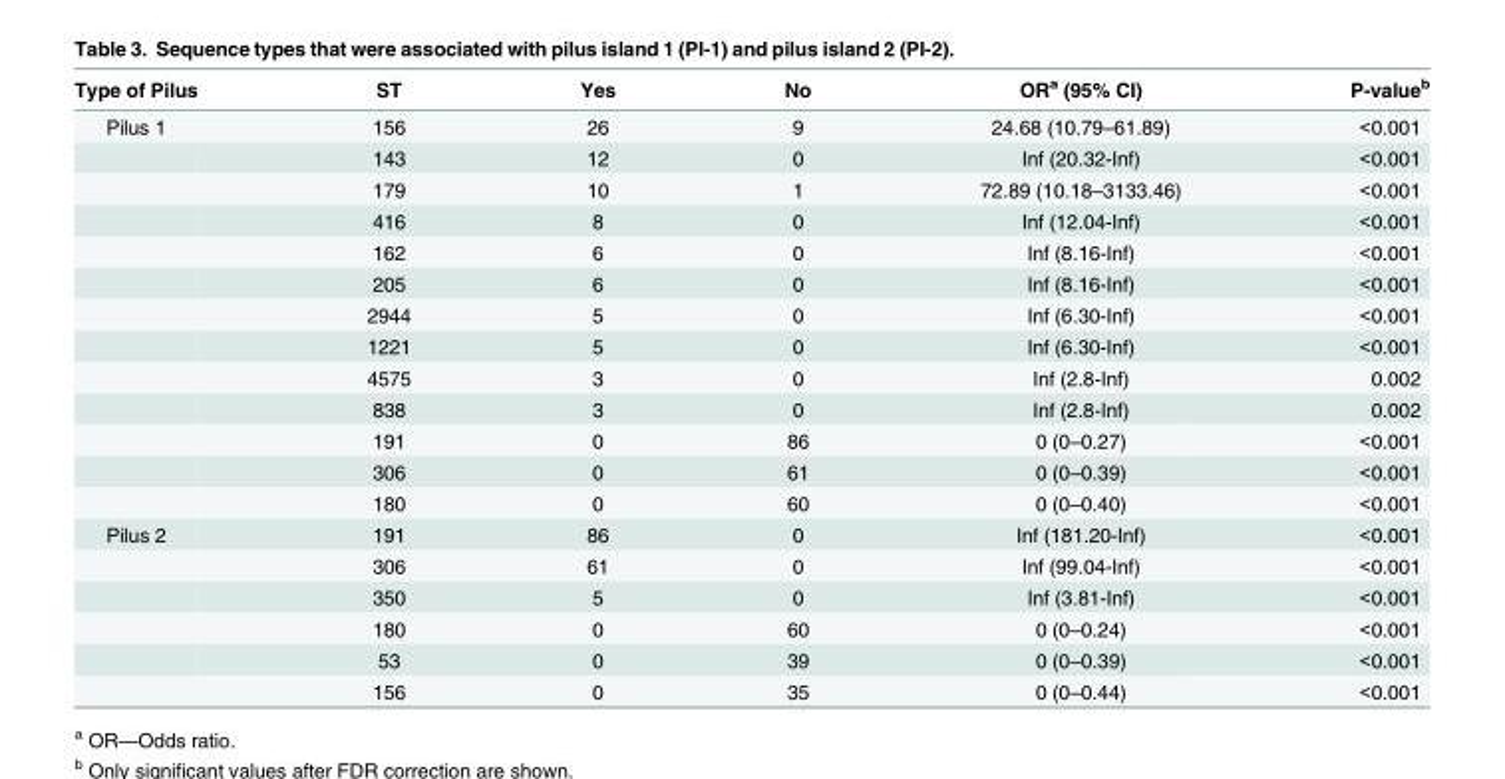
<table><thead><tr><td>Type of Pilus</td><td>ST</td><td>Yes</td><td>No</td><td>OR<sup>a</sup> (95% CI)</td><td>P-value<sup>b</sup></td></tr></thead><tbody><tr><td rowspan="13">Pilus 1</td><td>156</td><td>26</td><td>9</td><td>24.68 (10.79–61.89)</td><td>&lt;0.001</td></tr><tr><td>143</td><td>12</td><td>0</td><td>Inf (20.32-Inf)</td><td>&lt;0.001</td></tr><tr><td>179</td><td>10</td><td>1</td><td>72.89 (10.18–3133.46)</td><td>&lt;0.001</td></tr><tr><td>416</td><td>8</td><td>0</td><td>Inf (12.04-Inf)</td><td>&lt;0.001</td></tr><tr><td>162</td><td>6</td><td>0</td><td>Inf (8.16-Inf)</td><td>&lt;0.001</td></tr><tr><td>205</td><td>6</td><td>0</td><td>Inf (8.16-Inf)</td><td>&lt;0.001</td></tr><tr><td>2944</td><td>5</td><td>0</td><td>Inf (6.30-Inf)</td><td>&lt;0.001</td></tr><tr><td>1221</td><td>5</td><td>0</td><td>Inf (6.30-Inf)</td><td>&lt;0.001</td></tr><tr><td>4575</td><td>3</td><td>0</td><td>Inf (2.8-Inf)</td><td>0.002</td></tr><tr><td>838</td><td>3</td><td>0</td><td>Inf (2.8-Inf)</td><td>0.002</td></tr><tr><td>191</td><td>0</td><td>86</td><td>0 (0–0.27)</td><td>&lt;0.001</td></tr><tr><td>306</td><td>0</td><td>61</td><td>0 (0–0.39)</td><td>&lt;0.001</td></tr><tr><td>180</td><td>0</td><td>60</td><td>0 (0–0.40)</td><td>&lt;0.001</td></tr><tr><td rowspan="6">Pilus 2</td><td>191</td><td>86</td><td>0</td><td>Inf (181.20-Inf)</td><td>&lt;0.001</td></tr><tr><td>306</td><td>61</td><td>0</td><td>Inf (99.04-Inf)</td><td>&lt;0.001</td></tr><tr><td>350</td><td>5</td><td>0</td><td>Inf (3.81-Inf)</td><td>&lt;0.001</td></tr><tr><td>180</td><td>0</td><td>60</td><td>0 (0–0.24)</td><td>&lt;0.001</td></tr><tr><td>53</td><td>0</td><td>39</td><td>0 (0–0.39)</td><td>&lt;0.001</td></tr><tr><td>156</td><td>0</td><td>35</td><td>0 (0–0.44)</td><td>&lt;0.001</td></tr></tbody></table>